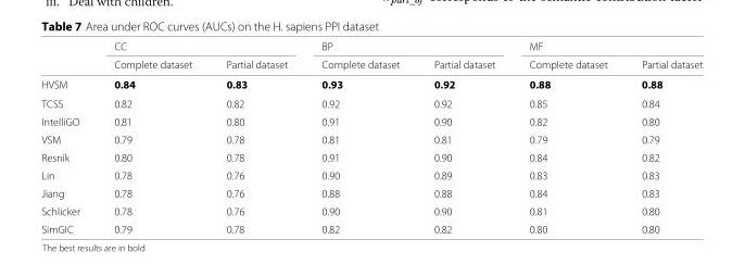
<table><thead><tr><td rowspan="2"></td><td colspan="2">CC</td><td colspan="2">BP</td><td colspan="2">MF</td></tr><tr><td>Complete dataset</td><td>Partial dataset</td><td>Complete dataset</td><td>Partial dataset</td><td>Complete dataset</td><td>Partial dataset</td></tr></thead><tbody><tr><td>HVSM</td><td>0.84</td><td>0.83</td><td>0.93</td><td>0.92</td><td>0.88</td><td>0.88</td></tr><tr><td>TCSS</td><td>0.82</td><td>0.82</td><td>0.92</td><td>0.92</td><td>0.85</td><td>0.84</td></tr><tr><td>IntelliGO</td><td>0.81</td><td>0.80</td><td>0.91</td><td>0.90</td><td>0.82</td><td>0.80</td></tr><tr><td>VSM</td><td>0.79</td><td>0.78</td><td>0.81</td><td>0.81</td><td>0.79</td><td>0.79</td></tr><tr><td>Resnik</td><td>0.80</td><td>0.78</td><td>0.91</td><td>0.90</td><td>0.84</td><td>0.82</td></tr><tr><td>Lin</td><td>0.78</td><td>0.76</td><td>0.90</td><td>0.89</td><td>0.83</td><td>0.83</td></tr><tr><td>Jiang</td><td>0.78</td><td>0.76</td><td>0.88</td><td>0.88</td><td>0.84</td><td>0.83</td></tr><tr><td>Schlicker</td><td>0.78</td><td>0.76</td><td>0.90</td><td>0.90</td><td>0.81</td><td>0.80</td></tr><tr><td>SimGIC</td><td>0.79</td><td>0.78</td><td>0.82</td><td>0.82</td><td>0.80</td><td>0.80</td></tr></tbody></table>